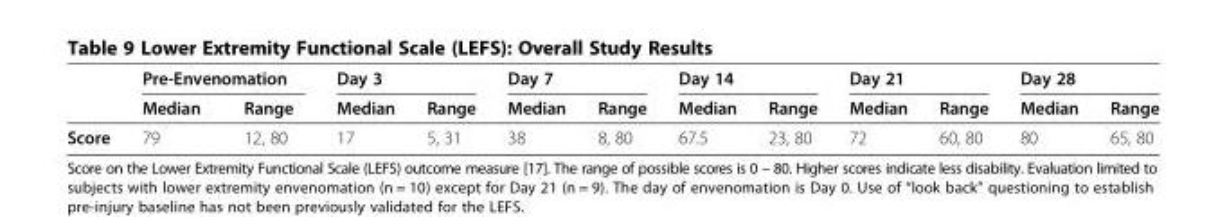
<table><thead><tr><td rowspan="2"></td><td colspan="2">Pre-Envenomation</td><td colspan="2">Day 3</td><td colspan="2">Day 7</td><td colspan="2">Day 14</td><td colspan="2">Day 21</td><td colspan="2">Day 28</td></tr><tr><td>Median</td><td>Range</td><td>Median</td><td>Range</td><td>Median</td><td>Range</td><td>Median</td><td>Range</td><td>Median</td><td>Range</td><td>Median</td><td>Range</td></tr></thead><tbody><tr><td>Score</td><td>79</td><td>12, 80</td><td>17</td><td>5, 31</td><td>38</td><td>8, 80</td><td>67.5</td><td>23, 80</td><td>72</td><td>60, 80</td><td>80</td><td>65, 80</td></tr></tbody></table>